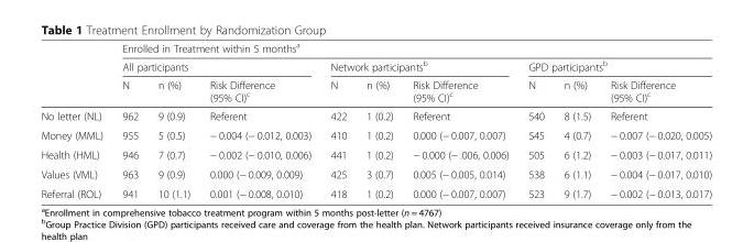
<table><thead><tr><td rowspan="3"></td><td colspan="9">Enrolled in Treatment within 5 months<sup>a</sup></td></tr><tr><td colspan="3">All participants</td><td colspan="3">Network participants<sup>b</sup></td><td colspan="3">GPD participants<sup>b</sup></td></tr><tr><td>N</td><td>n (%)</td><td>Risk Difference (95% CI)<sup>c</sup></td><td>N</td><td>n (%)</td><td>Risk Difference (95% CI)<sup>c</sup></td><td>N</td><td>n (%)</td><td>Risk Difference (95% CI)<sup>c</sup></td></tr></thead><tbody><tr><td>No letter (NL)</td><td>962</td><td>9 (0.9)</td><td>Referent</td><td>422</td><td>1 (0.2)</td><td>Referent</td><td>540</td><td>8 (1.5)</td><td>Referent</td></tr><tr><td>Money (MML)</td><td>955</td><td>5 (0.5)</td><td>− 0.004 (− 0.012, 0.003)</td><td>410</td><td>1 (0.2)</td><td>0.000 (− 0.007, 0.007)</td><td>545</td><td>4 (0.7)</td><td>− 0.007 (− 0.020, 0.005)</td></tr><tr><td>Health (HML)</td><td>946</td><td>7 (0.7)</td><td>− 0.002 (− 0.010, 0.006)</td><td>441</td><td>1 (0.2)</td><td>− 0.000 (− .006, 0.006)</td><td>505</td><td>6 (1.2)</td><td>− 0.003 (− 0.017, 0.011)</td></tr><tr><td>Values (VML)</td><td>963</td><td>9 (0.9)</td><td>0.000 (− 0.009, 0.009)</td><td>425</td><td>3 (0.7)</td><td>0.005 (− 0.005, 0.014)</td><td>538</td><td>6 (1.1)</td><td>− 0.004 (− 0.017, 0.010)</td></tr><tr><td>Referral (ROL)</td><td>941</td><td>10 (1.1)</td><td>0.001 (− 0.008, 0.010)</td><td>418</td><td>1 (0.2)</td><td>0.000 (− 0.007, 0.007)</td><td>523</td><td>9 (1.7)</td><td>− 0.002 (− 0.013, 0.017)</td></tr></tbody></table>